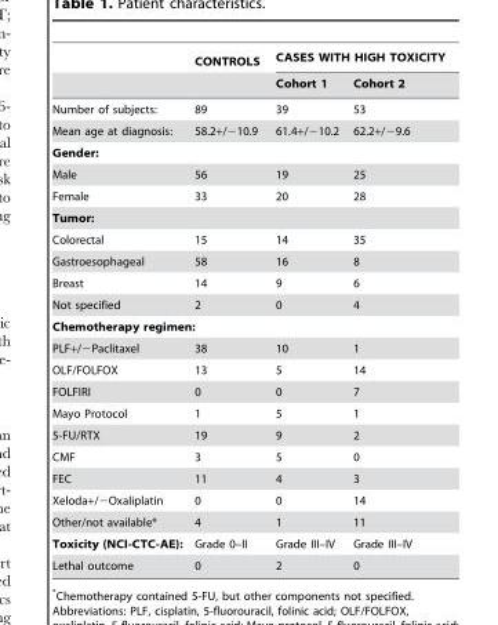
<table><thead><tr><td rowspan="2"></td><td rowspan="2">CONTROLS</td><td colspan="2">CASES WITH HIGH TOXICITY</td></tr><tr><td>Cohort 1</td><td>Cohort 2</td></tr></thead><tbody><tr><td>Number of subjects:</td><td>89</td><td>39</td><td>53</td></tr><tr><td>Mean age at diagnosis:</td><td>58.2+/−10.9</td><td>61.4+/−10.2</td><td>62.2+/−9.6</td></tr><tr><td colspan="4">Gender:</td></tr><tr><td>Male</td><td>56</td><td>19</td><td>25</td></tr><tr><td>Female</td><td>33</td><td>20</td><td>28</td></tr><tr><td colspan="4">Tumor:</td></tr><tr><td>Colorectal</td><td>15</td><td>14</td><td>35</td></tr><tr><td>Gastroesophageal</td><td>58</td><td>16</td><td>8</td></tr><tr><td>Breast</td><td>14</td><td>9</td><td>6</td></tr><tr><td>Not specified</td><td>2</td><td>0</td><td>4</td></tr><tr><td colspan="4">Chemotherapy regimen:</td></tr><tr><td>PLF+/−Paclitaxel</td><td>38</td><td>10</td><td>1</td></tr><tr><td>OLF/FOLFOX</td><td>13</td><td>5</td><td>14</td></tr><tr><td>FOLFIRI</td><td>0</td><td>0</td><td>7</td></tr><tr><td>Mayo Protocol</td><td>1</td><td>5</td><td>1</td></tr><tr><td>5-FU/RTX</td><td>19</td><td>9</td><td>2</td></tr><tr><td>CMF</td><td>3</td><td>5</td><td>0</td></tr><tr><td>FEC</td><td>11</td><td>4</td><td>3</td></tr><tr><td>Xeloda+/−Oxaliplatin</td><td>0</td><td>0</td><td>14</td></tr><tr><td>Other/not available*</td><td>4</td><td>1</td><td>11</td></tr><tr><td>Toxicity (NCI-CTC-AE):</td><td>Grade 0–II</td><td>Grade III–IV</td><td>Grade III–IV</td></tr><tr><td>Lethal outcome</td><td>0</td><td>2</td><td>0</td></tr></tbody></table>